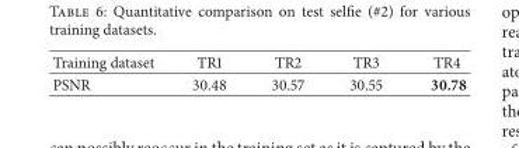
<table><thead><tr><td>Training dataset</td><td>TR1</td><td>TR2</td><td>TR3</td><td>TR4</td></tr></thead><tbody><tr><td>PSNR</td><td>30.48</td><td>30.57</td><td>30.55</td><td>30.78</td></tr></tbody></table>